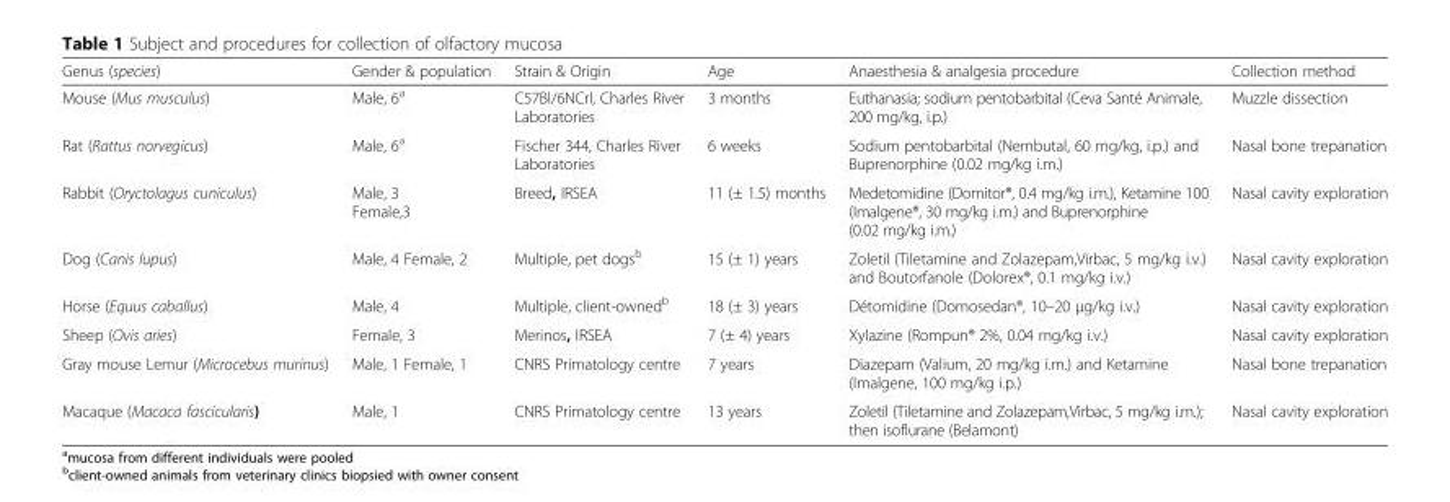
<table><thead><tr><td>Genus (species)</td><td>Gender &amp; population</td><td>Strain &amp; Origin</td><td>Age</td><td>Anaesthesia &amp; analgesia procedure</td><td>Collection method</td></tr></thead><tbody><tr><td>Mouse (Mus musculus)</td><td>Male, 6<sup>a</sup></td><td>C57Bl/6NCrl, Charles River Laboratories</td><td>3 months</td><td>Euthanasia; sodium pentobarbital (Ceva Santé Animale, 200 mg/kg, i.p.)</td><td>Muzzle dissection</td></tr><tr><td>Rat (Rattus norvegicus)</td><td>Male, 6<sup>a</sup></td><td>Fischer 344, Charles River Laboratories</td><td>6 weeks</td><td>Sodium pentobarbital (Nembutal, 60 mg/kg, i.p.) and Buprenorphine (0.02 mg/kg i.m.)</td><td>Nasal bone trepanation</td></tr><tr><td>Rabbit (Oryctolagus cuniculus)</td><td>Male, 3 Female,3</td><td>Breed, IRSEA</td><td>11 (± 1.5) months</td><td>Medetomidine (Domitor®, 0.4 mg/kg i.m.), Ketamine 100 (Imalgene®, 30 mg/kg i.m.) and Buprenorphine (0.02 mg/kg i.m.)</td><td>Nasal cavity exploration</td></tr><tr><td>Dog (Canis lupus)</td><td>Male, 4 Female, 2</td><td>Multiple, pet dogs<sup>b</sup></td><td>15 (± 1) years</td><td>Zoletil (Tiletamine and Zolazepam,Virbac, 5 mg/kg i.v.) and Boutorfanole (Dolorex®, 0.1 mg/kg i.v.)</td><td>Nasal cavity exploration</td></tr><tr><td>Horse (Equus caballus)</td><td>Male, 4</td><td>Multiple, client-owned<sup>b</sup></td><td>18 (± 3) years</td><td>Détomidine (Domosedan®, 10–20 μg/kg i.v.)</td><td>Nasal cavity exploration</td></tr><tr><td>Sheep (Ovis aries)</td><td>Female, 3</td><td>Merinos, IRSEA</td><td>7 (± 4) years</td><td>Xylazine (Rompun® 2%, 0.04 mg/kg i.v.)</td><td>Nasal cavity exploration</td></tr><tr><td>Gray mouse Lemur (Microcebus murinus)</td><td>Male, 1 Female, 1</td><td>CNRS Primatology centre</td><td>7 years</td><td>Diazepam (Valium, 20 mg/kg i.m.) and Ketamine (Imalgene, 100 mg/kg i.p.)</td><td>Nasal bone trepanation</td></tr><tr><td>Macaque (Macaca fascicularis)</td><td>Male, 1</td><td>CNRS Primatology centre</td><td>13 years</td><td>Zoletil (Tiletamine and Zolazepam,Virbac, 5 mg/kg i.m.); then isoflurane (Belamont)</td><td>Nasal cavity exploration</td></tr></tbody></table>